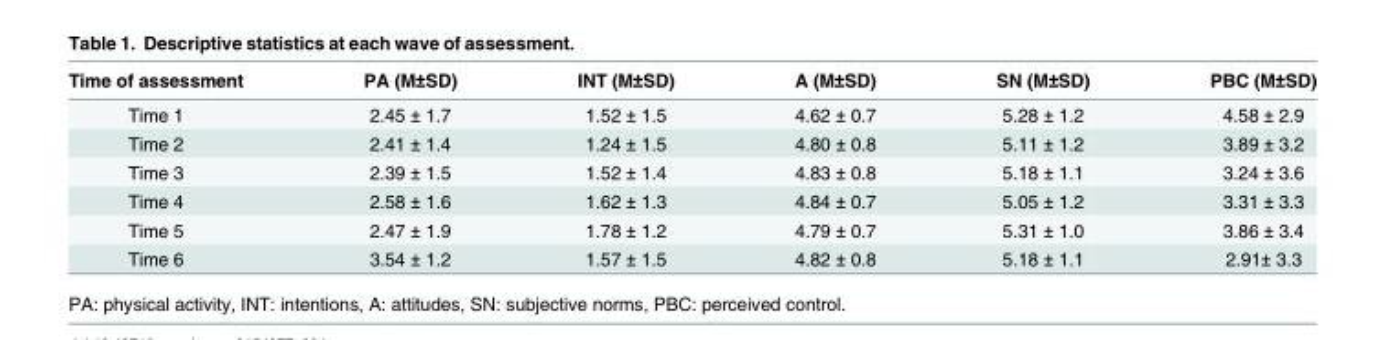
<table><thead><tr><td>Time of assessment</td><td>PA (M±SD)</td><td>INT (M±SD)</td><td>A (M±SD)</td><td>SN (M±SD)</td><td>PBC (M±SD)</td></tr></thead><tbody><tr><td>Time 1</td><td>2.45 ± 1.7</td><td>1.52 ± 1.5</td><td>4.62 ± 0.7</td><td>5.28 ± 1.2</td><td>4.58 ± 2.9</td></tr><tr><td>Time 2</td><td>2.41 ± 1.4</td><td>1.24 ± 1.5</td><td>4.80 ± 0.8</td><td>5.11 ± 1.2</td><td>3.89 ± 3.2</td></tr><tr><td>Time 3</td><td>2.39 ± 1.5</td><td>1.52 ± 1.4</td><td>4.83 ± 0.8</td><td>5.18 ± 1.1</td><td>3.24 ± 3.6</td></tr><tr><td>Time 4</td><td>2.58 ± 1.6</td><td>1.62 ± 1.3</td><td>4.84 ± 0.7</td><td>5.05 ± 1.2</td><td>3.31 ± 3.3</td></tr><tr><td>Time 5</td><td>2.47 ± 1.9</td><td>1.78 ± 1.2</td><td>4.79 ± 0.7</td><td>5.31 ± 1.0</td><td>3.86 ± 3.4</td></tr><tr><td>Time 6</td><td>3.54 ± 1.2</td><td>1.57 ± 1.5</td><td>4.82 ± 0.8</td><td>5.18 ± 1.1</td><td>2.91± 3.3</td></tr></tbody></table>